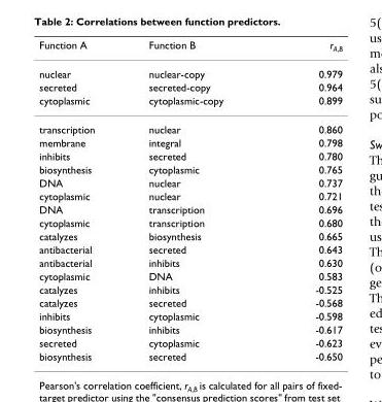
<table><thead><tr><td>Function A</td><td>Function B</td><td>rA,B</td></tr></thead><tbody><tr><td>nuclear</td><td>nuclear-copy</td><td>0.979</td></tr><tr><td>secreted</td><td>secreted-copy</td><td>0.964</td></tr><tr><td>cytoplasmic</td><td>cytoplasmic-copy</td><td>0.899</td></tr><tr><td>transcription</td><td>nuclear</td><td>0.860</td></tr><tr><td>membrane</td><td>integral</td><td>0.798</td></tr><tr><td>inhibits</td><td>secreted</td><td>0.780</td></tr><tr><td>biosynthesis</td><td>cytoplasmic</td><td>0.765</td></tr><tr><td>DNA</td><td>nuclear</td><td>0.737</td></tr><tr><td>cytoplasmic</td><td>nuclear</td><td>0.721</td></tr><tr><td>DNA</td><td>transcription</td><td>0.696</td></tr><tr><td>cytoplasmic</td><td>transcription</td><td>0.680</td></tr><tr><td>catalyzes</td><td>biosynthesis</td><td>0.665</td></tr><tr><td>antibacterial</td><td>secreted</td><td>0.643</td></tr><tr><td>antibacterial</td><td>inhibits</td><td>0.630</td></tr><tr><td>cytoplasmic</td><td>DNA</td><td>0.583</td></tr><tr><td>catalyzes</td><td>inhibits</td><td>-0.525</td></tr><tr><td>catalyzes</td><td>secreted</td><td>-0.568</td></tr><tr><td>inhibits</td><td>cytoplasmic</td><td>-0.598</td></tr><tr><td>biosynthesis</td><td>inhibits</td><td>-0.617</td></tr><tr><td>secreted</td><td>cytoplasmic</td><td>-0.623</td></tr><tr><td>biosynthesis</td><td>secreted</td><td>-0.650</td></tr></tbody></table>